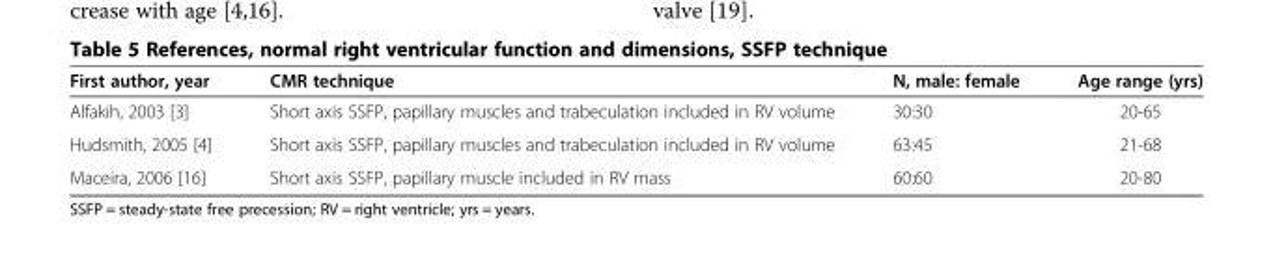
<table><thead><tr><td>First author, year</td><td>CMR technique</td><td>N, male: female</td><td>Age range (yrs)</td></tr></thead><tbody><tr><td>Alfakih, 2003 [3]</td><td>Short axis SSFP, papillary muscles and trabeculation included in RV volume</td><td>30:30</td><td>20-65</td></tr><tr><td>Hudsmith, 2005 [4]</td><td>Short axis SSFP, papillary muscles and trabeculation included in RV volume</td><td>63:45</td><td>21-68</td></tr><tr><td>Maceira, 2006 [16]</td><td>Short axis SSFP, papillary muscle included in RV mass</td><td>60:60</td><td>20-80</td></tr></tbody></table>